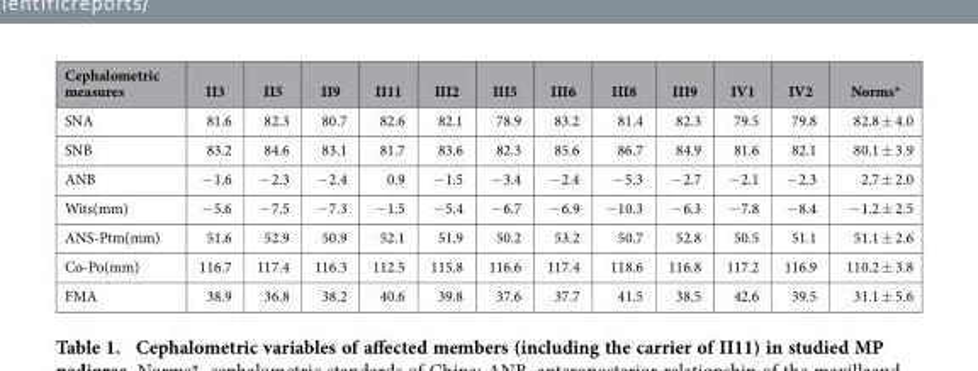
<table><thead><tr><td>Cephalometric measures</td><td>II3</td><td>II5</td><td>II9</td><td>II11</td><td>III2</td><td>III5</td><td>III6</td><td>III8</td><td>III9</td><td>IV1</td><td>IV2</td><td>Norms*</td></tr></thead><tbody><tr><td>SNA</td><td>81.6</td><td>82.3</td><td>80.7</td><td>82.6</td><td>82.1</td><td>78.9</td><td>83.2</td><td>81.4</td><td>82.3</td><td>79.5</td><td>79.8</td><td>82.8 ± 4.0</td></tr><tr><td>SNB</td><td>83.2</td><td>84.6</td><td>83.1</td><td>81.7</td><td>83.6</td><td>82.3</td><td>85.6</td><td>86.7</td><td>84.9</td><td>81.6</td><td>82.1</td><td>80.1 ± 3.9</td></tr><tr><td>ANB</td><td>− 1.6</td><td>− 2.3</td><td>− 2.4</td><td>0.9</td><td>− 1.5</td><td>− 3.4</td><td>− 2.4</td><td>− 5.3</td><td>− 2.7</td><td>− 2.1</td><td>− 2.3</td><td>2.7 ± 2.0</td></tr><tr><td>Wits(mm)</td><td>− 5.6</td><td>− 7.5</td><td>− 7.3</td><td>− 1.5</td><td>− 5.4</td><td>− 6.7</td><td>− 6.9</td><td>− 10.3</td><td>− 6.3</td><td>− 7.8</td><td>− 8.4</td><td>− 1.2 ± 2.5</td></tr><tr><td>ANS-Ptm(mm)</td><td>51.6</td><td>52.9</td><td>50.9</td><td>52.1</td><td>51.9</td><td>50.2</td><td>53.2</td><td>50.7</td><td>52.8</td><td>50.5</td><td>51.1</td><td>51.1 ± 2.6</td></tr><tr><td>Co-Po(mm)</td><td>116.7</td><td>117.4</td><td>116.3</td><td>112.5</td><td>115.8</td><td>116.6</td><td>117.4</td><td>118.6</td><td>116.8</td><td>117.2</td><td>116.9</td><td>110.2 ± 3.8</td></tr><tr><td>FMA</td><td>38.9</td><td>36.8</td><td>38.2</td><td>40.6</td><td>39.8</td><td>37.6</td><td>37.7</td><td>41.5</td><td>38.5</td><td>42.6</td><td>39.5</td><td>31.1 ± 5.6</td></tr></tbody></table>